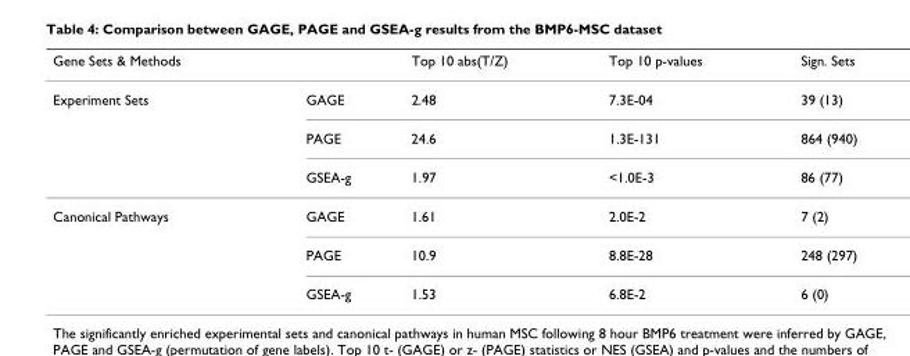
<table><thead><tr><td>Gene Sets &amp; Methods</td><td></td><td>Top 10 abs(T/Z)</td><td>Top 10 p-values</td><td>Sign. Sets</td></tr></thead><tbody><tr><td rowspan="3">Experiment Sets</td><td>GAGE</td><td>2.48</td><td>7.3E-04</td><td>39 (13)</td></tr><tr><td>PAGE</td><td>24.6</td><td>1.3E-131</td><td>864 (940)</td></tr><tr><td>GSEA-g</td><td>1.97</td><td>&lt;1.0E-3</td><td>86 (77)</td></tr><tr><td rowspan="3">Canonical Pathways</td><td>GAGE</td><td>1.61</td><td>2.0E-2</td><td>7 (2)</td></tr><tr><td>PAGE</td><td>10.9</td><td>8.8E-28</td><td>248 (297)</td></tr><tr><td>GSEA-g</td><td>1.53</td><td>6.8E-2</td><td>6 (0)</td></tr></tbody></table>